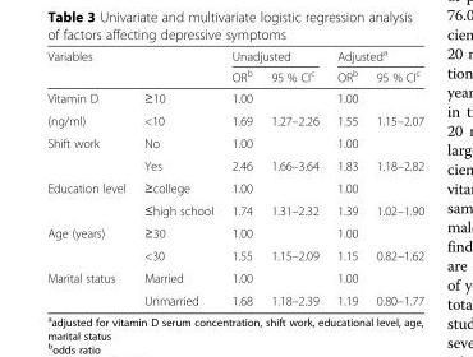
<table><thead><tr><td rowspan="2">Variables</td><td rowspan="2"></td><td colspan="2">Unadjusted</td><td colspan="2">Adjusted<sup>a</sup></td></tr><tr><td>OR<sup>b</sup></td><td>95 % CI<sup>c</sup></td><td>OR<sup>b</sup></td><td>95 % CI<sup>c</sup></td></tr></thead><tbody><tr><td>Vitamin D</td><td>≥10</td><td>1.00</td><td></td><td>1.00</td><td></td></tr><tr><td>(ng/ml)</td><td>&lt;10</td><td>1.69</td><td>1.27–2.26</td><td>1.55</td><td>1.15–2.07</td></tr><tr><td rowspan="2">Shift work</td><td>No</td><td>1.00</td><td></td><td>1.00</td><td></td></tr><tr><td>Yes</td><td>2.46</td><td>1.66–3.64</td><td>1.83</td><td>1.18–2.82</td></tr><tr><td rowspan="2">Education level</td><td>≥college</td><td>1.00</td><td></td><td>1.00</td><td></td></tr><tr><td>≤high school</td><td>1.74</td><td>1.31–2.32</td><td>1.39</td><td>1.02–1.90</td></tr><tr><td rowspan="2">Age (years)</td><td>≥30</td><td>1.00</td><td></td><td>1.00</td><td></td></tr><tr><td>&lt;30</td><td>1.55</td><td>1.15–2.09</td><td>1.15</td><td>0.82–1.62</td></tr><tr><td rowspan="2">Marital status</td><td>Married</td><td>1.00</td><td></td><td>1.00</td><td></td></tr><tr><td>Unmarried</td><td>1.68</td><td>1.18–2.39</td><td>1.19</td><td>0.80–1.77</td></tr></tbody></table>